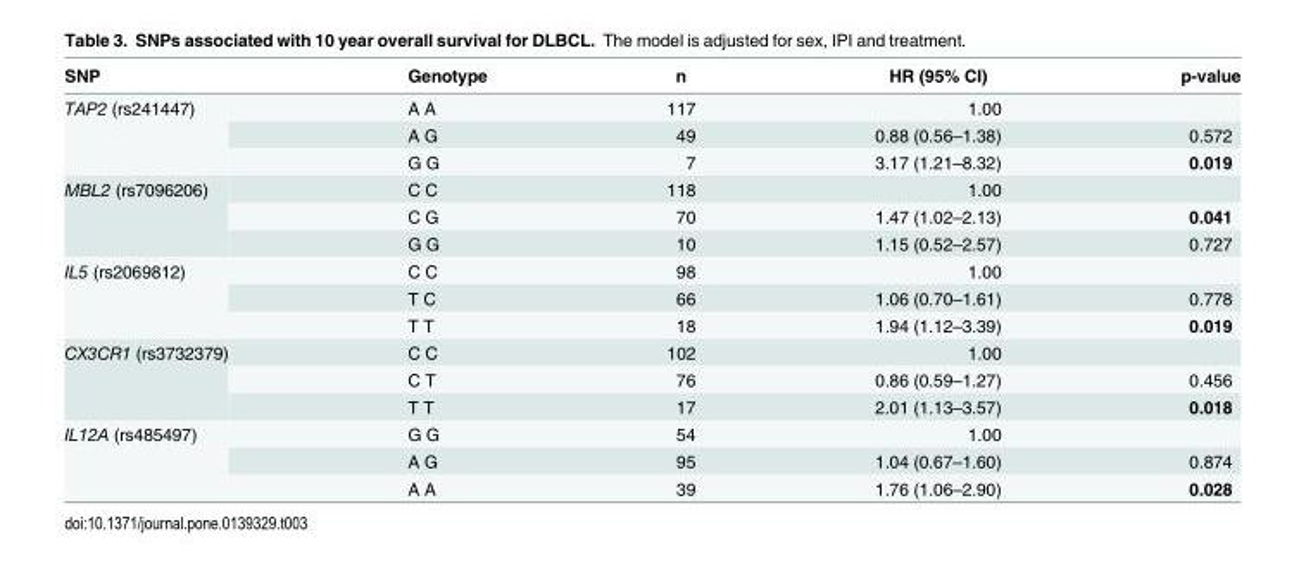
<table><thead><tr><td>SNP</td><td>Genotype</td><td>n</td><td>HR (95% CI)</td><td>p-value</td></tr></thead><tbody><tr><td rowspan="3">TAP2 (rs241447)</td><td>A A</td><td>117</td><td>1.00</td><td></td></tr><tr><td>A G</td><td>49</td><td>0.88 (0.56–1.38)</td><td>0.572</td></tr><tr><td>G G</td><td>7</td><td>3.17 (1.21–8.32)</td><td>0.019</td></tr><tr><td rowspan="3">MBL2 (rs7096206)</td><td>C C</td><td>118</td><td>1.00</td><td></td></tr><tr><td>C G</td><td>70</td><td>1.47 (1.02–2.13)</td><td>0.041</td></tr><tr><td>G G</td><td>10</td><td>1.15 (0.52–2.57)</td><td>0.727</td></tr><tr><td rowspan="3">IL5 (rs2069812)</td><td>C C</td><td>98</td><td>1.00</td><td></td></tr><tr><td>T C</td><td>66</td><td>1.06 (0.70–1.61)</td><td>0.778</td></tr><tr><td>T T</td><td>18</td><td>1.94 (1.12–3.39)</td><td>0.019</td></tr><tr><td rowspan="3">CX3CR1 (rs3732379)</td><td>C C</td><td>102</td><td>1.00</td><td></td></tr><tr><td>C T</td><td>76</td><td>0.86 (0.59–1.27)</td><td>0.456</td></tr><tr><td>T T</td><td>17</td><td>2.01 (1.13–3.57)</td><td>0.018</td></tr><tr><td rowspan="3">IL12A (rs485497)</td><td>G G</td><td>54</td><td>1.00</td><td></td></tr><tr><td>A G</td><td>95</td><td>1.04 (0.67–1.60)</td><td>0.874</td></tr><tr><td>A A</td><td>39</td><td>1.76 (1.06–2.90)</td><td>0.028</td></tr></tbody></table>